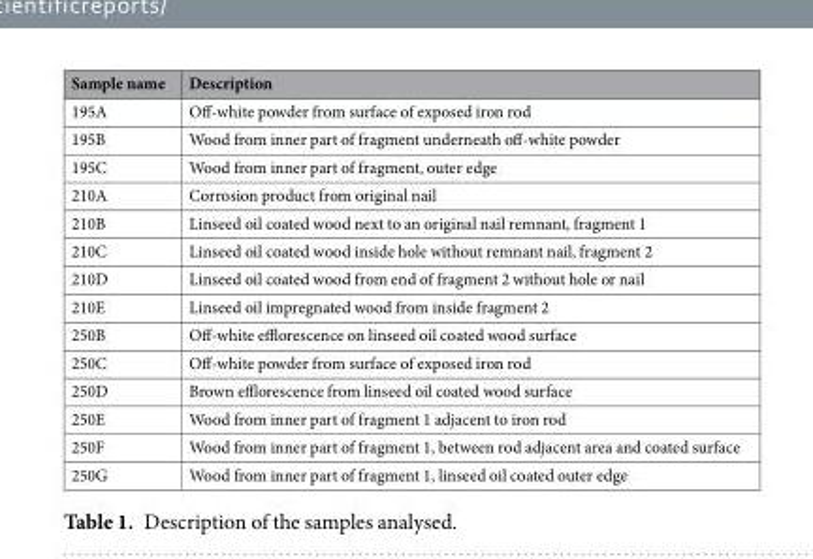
<table><thead><tr><td>Sample name</td><td>Description</td></tr></thead><tbody><tr><td>195A</td><td>Off-white powder from surface of exposed iron rod</td></tr><tr><td>195B</td><td>Wood from inner part of fragment underneath off-white powder</td></tr><tr><td>195C</td><td>Wood from inner part of fragment, outer edge</td></tr><tr><td>210A</td><td>Corrosion product from original nail</td></tr><tr><td>210B</td><td>Linseed oil coated wood next to an original nail remnant, fragment 1</td></tr><tr><td>210C</td><td>Linseed oil coated wood inside hole without remnant nail, fragment 2</td></tr><tr><td>210D</td><td>Linseed oil coated wood from end of fragment 2 without hole or nail</td></tr><tr><td>210E</td><td>Linseed oil impregnated wood from inside fragment 2</td></tr><tr><td>250B</td><td>Off-white efflorescence on linseed oil coated wood surface</td></tr><tr><td>250C</td><td>Off-white powder from surface of exposed iron rod</td></tr><tr><td>250D</td><td>Brown efflorescence from linseed oil coated wood surface</td></tr><tr><td>250E</td><td>Wood from inner part of fragment 1 adjacent to iron rod</td></tr><tr><td>250F</td><td>Wood from inner part of fragment 1, between rod adjacent area and coated surface</td></tr><tr><td>250G</td><td>Wood from inner part of fragment 1, linseed oil coated outer edge</td></tr></tbody></table>